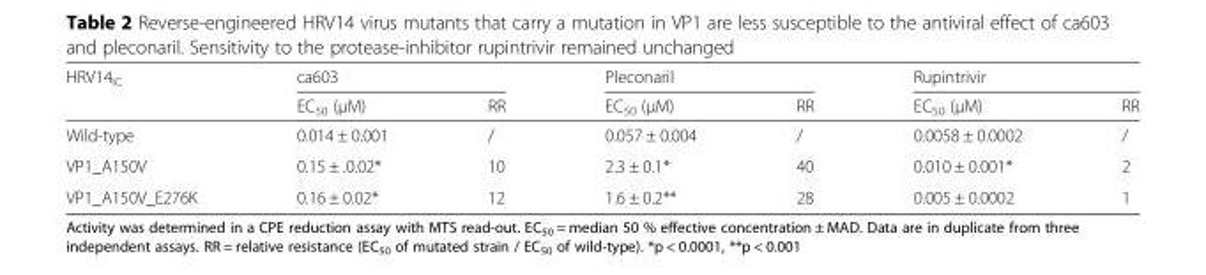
<table><thead><tr><td rowspan="2">HRV14<sub>IC</sub></td><td colspan="2">ca603</td><td colspan="2">Pleconaril</td><td colspan="2">Rupintrivir</td></tr><tr><td>EC<sub>50</sub> (μM)</td><td>RR</td><td>EC<sub>50</sub> (μM)</td><td>RR</td><td>EC<sub>50</sub> (μM)</td><td>RR</td></tr></thead><tbody><tr><td>Wild-type</td><td>0.014 ± 0.001</td><td>/</td><td>0.057 ± 0.004</td><td>/</td><td>0.0058 ± 0.0002</td><td>/</td></tr><tr><td>VP1_A150V</td><td>0.15 ± .0.02*</td><td>10</td><td>2.3 ± 0.1*</td><td>40</td><td>0.010 ± 0.001*</td><td>2</td></tr><tr><td>VP1_A150V_E276K</td><td>0.16 ± 0.02*</td><td>12</td><td>1.6 ± 0.2**</td><td>28</td><td>0.005 ± 0.0002</td><td>1</td></tr></tbody></table>